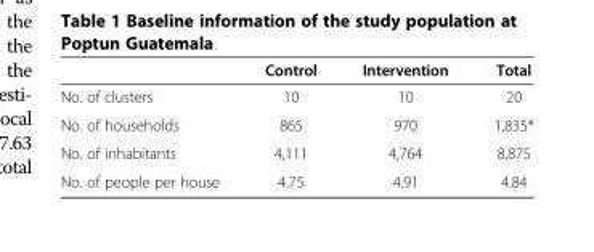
<table><thead><tr><td></td><td>Control</td><td>Intervention</td><td>Total</td></tr></thead><tbody><tr><td>No. of clusters</td><td>10</td><td>10</td><td>20</td></tr><tr><td>No. of households</td><td>865</td><td>970</td><td>1,835*</td></tr><tr><td>No. of inhabitants</td><td>4,111</td><td>4,764</td><td>8,875</td></tr><tr><td>No. of people per house</td><td>4.75</td><td>4.91</td><td>4.84</td></tr></tbody></table>